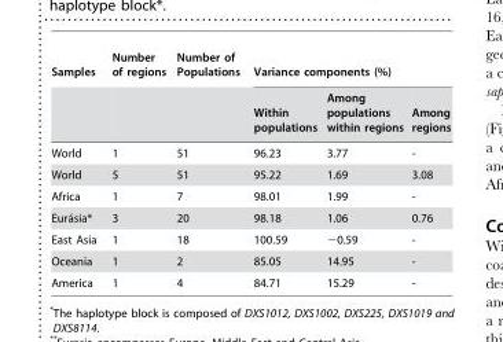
<table><thead><tr><td rowspan="2">Samples</td><td rowspan="2">Number of regions</td><td rowspan="2">Number of Populations</td><td colspan="3">Variance components (%)</td></tr><tr><td>Within populations</td><td>Among populations within regions</td><td>Among regions</td></tr></thead><tbody><tr><td>World</td><td>1</td><td>51</td><td>96.23</td><td>3.77</td><td>-</td></tr><tr><td>World</td><td>5</td><td>51</td><td>95.22</td><td>1.69</td><td>3.08</td></tr><tr><td>Africa</td><td>1</td><td>7</td><td>98.01</td><td>1.99</td><td>-</td></tr><tr><td>Eura´sia*</td><td>3</td><td>20</td><td>98.18</td><td>1.06</td><td>0.76</td></tr><tr><td>East Asia</td><td>1</td><td>18</td><td>100.59</td><td>−0.59</td><td>-</td></tr><tr><td>Oceania</td><td>1</td><td>2</td><td>85.05</td><td>14.95</td><td>-</td></tr><tr><td>America</td><td>1</td><td>4</td><td>84.71</td><td>15.29</td><td>-</td></tr></tbody></table>